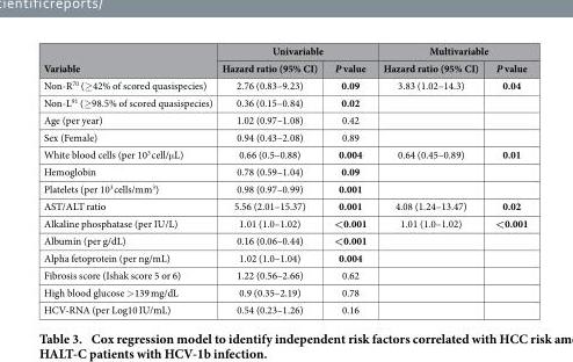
<table><thead><tr><td rowspan="2">Variable</td><td colspan="2">Univariable</td><td colspan="2">Multivariable</td></tr><tr><td>Hazard ratio (95% CI)</td><td>P value</td><td>Hazard ratio (95% CI)</td><td>P value</td></tr></thead><tbody><tr><td>Non-R<sup>70</sup> (≥ 42% of scored quasispecies)</td><td>2.76 (0.83–9.23)</td><td>0.09</td><td>3.83 (1.02–14.3)</td><td>0.04</td></tr><tr><td>Non-L<sup>91</sup> (≥ 98.5% of scored quasispecies)</td><td>0.36 (0.15–0.84)</td><td>0.02</td><td></td><td></td></tr><tr><td>Age (per year)</td><td>1.02 (0.97–1.08)</td><td>0.42</td><td></td><td></td></tr><tr><td>Sex (Female)</td><td>0.94 (0.43–2.08)</td><td>0.89</td><td></td><td></td></tr><tr><td>White blood cells (per 10<sup>3</sup> cell/μ L)</td><td>0.66 (0.5–0.88)</td><td>0.004</td><td>0.64 (0.45–0.89)</td><td>0.01</td></tr><tr><td>Hemoglobin</td><td>0.78 (0.59–1.04)</td><td>0.09</td><td></td><td></td></tr><tr><td>Platelets (per 10<sup>3</sup> cells/mm<sup>3</sup>)</td><td>0.98 (0.97–0.99)</td><td>0.001</td><td></td><td></td></tr><tr><td>AST/ALT ratio</td><td>5.56 (2.01–15.37)</td><td>0.001</td><td>4.08 (1.24–13.47)</td><td>0.02</td></tr><tr><td>Alkaline phosphatase (per IU/L)</td><td>1.01 (1.0–1.02)</td><td>&lt;0.001</td><td>1.01 (1.0–1.02)</td><td>&lt;0.001</td></tr><tr><td>Albumin (per g/dL)</td><td>0.16 (0.06–0.44)</td><td>&lt;0.001</td><td></td><td></td></tr><tr><td>Alpha fetoprotein (per ng/mL)</td><td>1.02 (1.0–1.04)</td><td>0.004</td><td></td><td></td></tr><tr><td>Fibrosis score (Ishak score 5 or 6)</td><td>1.22 (0.56–2.66)</td><td>0.62</td><td></td><td></td></tr><tr><td>High blood glucose &gt; 139 mg/dL</td><td>0.9 (0.35–2.19)</td><td>0.78</td><td></td><td></td></tr><tr><td>HCV-RNA (per Log10 IU/mL)</td><td>0.54 (0.23–1.26)</td><td>0.16</td><td></td><td></td></tr></tbody></table>